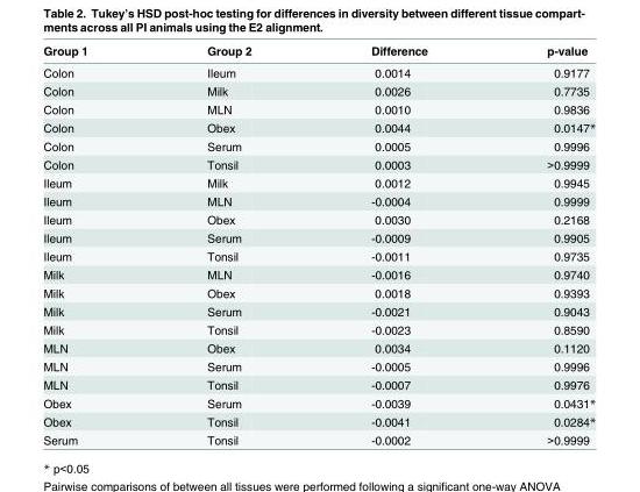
<table><thead><tr><td>Group 1</td><td>Group 2</td><td>Difference</td><td>p-value</td></tr></thead><tbody><tr><td>Colon</td><td>Ileum</td><td>0.0014</td><td>0.9177</td></tr><tr><td>Colon</td><td>Milk</td><td>0.0026</td><td>0.7735</td></tr><tr><td>Colon</td><td>MLN</td><td>0.0010</td><td>0.9836</td></tr><tr><td>Colon</td><td>Obex</td><td>0.0044</td><td>0.0147*</td></tr><tr><td>Colon</td><td>Serum</td><td>0.0005</td><td>0.9996</td></tr><tr><td>Colon</td><td>Tonsil</td><td>0.0003</td><td>&gt;0.9999</td></tr><tr><td>Ileum</td><td>Milk</td><td>0.0012</td><td>0.9945</td></tr><tr><td>Ileum</td><td>MLN</td><td>-0.0004</td><td>0.9999</td></tr><tr><td>Ileum</td><td>Obex</td><td>0.0030</td><td>0.2168</td></tr><tr><td>Ileum</td><td>Serum</td><td>-0.0009</td><td>0.9905</td></tr><tr><td>Ileum</td><td>Tonsil</td><td>-0.0011</td><td>0.9735</td></tr><tr><td>Milk</td><td>MLN</td><td>-0.0016</td><td>0.9740</td></tr><tr><td>Milk</td><td>Obex</td><td>0.0018</td><td>0.9393</td></tr><tr><td>Milk</td><td>Serum</td><td>-0.0021</td><td>0.9043</td></tr><tr><td>Milk</td><td>Tonsil</td><td>-0.0023</td><td>0.8590</td></tr><tr><td>MLN</td><td>Obex</td><td>0.0034</td><td>0.1120</td></tr><tr><td>MLN</td><td>Serum</td><td>-0.0005</td><td>0.9996</td></tr><tr><td>MLN</td><td>Tonsil</td><td>-0.0007</td><td>0.9976</td></tr><tr><td>Obex</td><td>Serum</td><td>-0.0039</td><td>0.0431*</td></tr><tr><td>Obex</td><td>Tonsil</td><td>-0.0041</td><td>0.0284*</td></tr><tr><td>Serum</td><td>Tonsil</td><td>-0.0002</td><td>&gt;0.9999</td></tr></tbody></table>